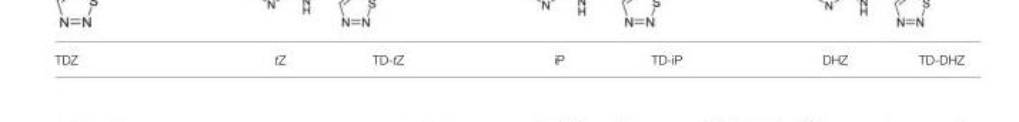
<table><tbody><tr><td>TDZ</td><td>tZ TD-tZ</td><td>iP TD-iP</td><td>DHZ TD-DHZ</td></tr></tbody></table>